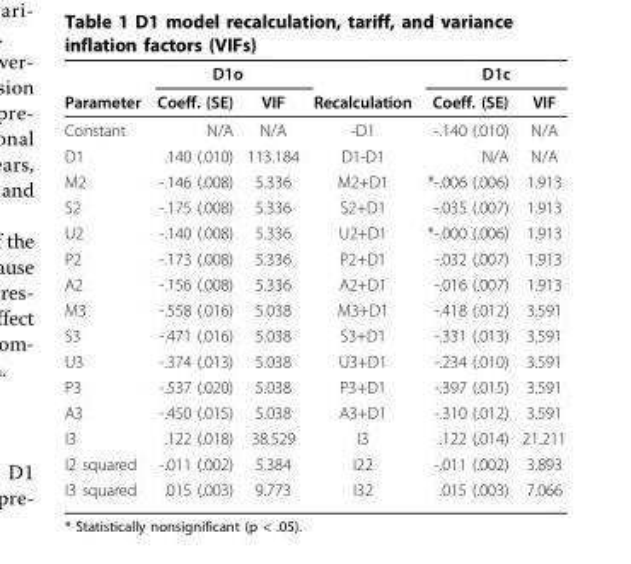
<table><thead><tr><td rowspan="2">Parameter</td><td colspan="2">D1o</td><td rowspan="2">Recalculation</td><td colspan="2">D1c</td></tr><tr><td>Coeff. (SE)</td><td>VIF</td><td>Coeff. (SE)</td><td>VIF</td></tr></thead><tbody><tr><td>Constant</td><td>N/A</td><td>N/A</td><td>-D1</td><td>-.140 (.010)</td><td>N/A</td></tr><tr><td>D1</td><td>.140 (.010)</td><td>113.184</td><td>D1-D1</td><td>N/A</td><td>N/A</td></tr><tr><td>M2</td><td>-.146 (.008)</td><td>5.336</td><td>M2+D1</td><td>*-.006 (.006)</td><td>1.913</td></tr><tr><td>S2</td><td>-.175 (.008)</td><td>5.336</td><td>S2+D1</td><td>-.035 (.007)</td><td>1.913</td></tr><tr><td>U2</td><td>-.140 (.008)</td><td>5.336</td><td>U2+D1</td><td>*-.000 (.006)</td><td>1.913</td></tr><tr><td>P2</td><td>-.173 (.008)</td><td>5.336</td><td>P2+D1</td><td>-.032 (.007)</td><td>1.913</td></tr><tr><td>A2</td><td>-.156 (.008)</td><td>5.336</td><td>A2+D1</td><td>-.016 (.007)</td><td>1.913</td></tr><tr><td>M3</td><td>-.558 (.016)</td><td>5.038</td><td>M3+D1</td><td>-.418 (.012)</td><td>3.591</td></tr><tr><td>S3</td><td>-.471 (.016)</td><td>5.038</td><td>S3+D1</td><td>-.331 (.013)</td><td>3.591</td></tr><tr><td>U3</td><td>-.374 (.013)</td><td>5.038</td><td>U3+D1</td><td>-.234 (.010)</td><td>3.591</td></tr><tr><td>P3</td><td>-.537 (.020)</td><td>5.038</td><td>P3+D1</td><td>-.397 (.015)</td><td>3.591</td></tr><tr><td>A3</td><td>-.450 (.015)</td><td>5.038</td><td>A3+D1</td><td>-.310 (.012)</td><td>3.591</td></tr><tr><td>I3</td><td>.122 (.018)</td><td>38.529</td><td>I3</td><td>.122 (.014)</td><td>21.211</td></tr><tr><td>I2 squared</td><td>-.011 (.002)</td><td>5.384</td><td>I22</td><td>-.011 (.002)</td><td>3.893</td></tr><tr><td>I3 squared</td><td>.015 (.003)</td><td>9.773</td><td>I32</td><td>.015 (.003)</td><td>7.066</td></tr></tbody></table>